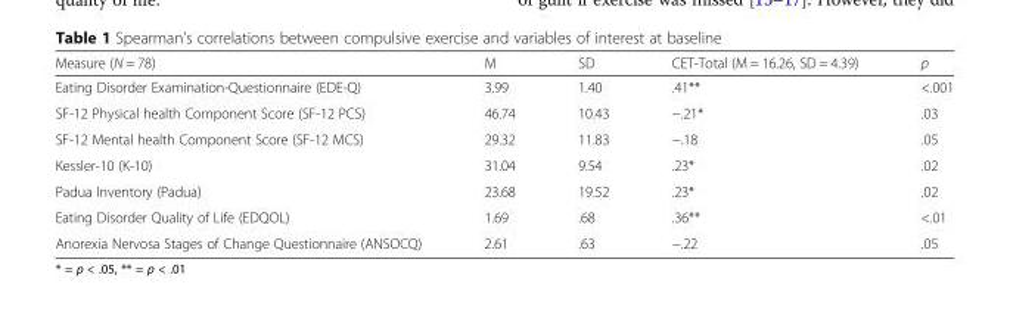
<table><thead><tr><td>Measure (N = 78)</td><td>M</td><td>SD</td><td>CET-Total (M = 16.26, SD = 4.39)</td><td>p</td></tr></thead><tbody><tr><td>Eating Disorder Examination-Questionnaire (EDE-Q)</td><td>3.99</td><td>1.40</td><td>.41**</td><td>&lt;.001</td></tr><tr><td>SF-12 Physical health Component Score (SF-12 PCS)</td><td>46.74</td><td>10.43</td><td>−.21*</td><td>.03</td></tr><tr><td>SF-12 Mental health Component Score (SF-12 MCS)</td><td>29.32</td><td>11.83</td><td>−.18</td><td>.05</td></tr><tr><td>Kessler-10 (K-10)</td><td>31.04</td><td>9.54</td><td>.23*</td><td>.02</td></tr><tr><td>Padua Inventory (Padua)</td><td>23.68</td><td>19.52</td><td>.23*</td><td>.02</td></tr><tr><td>Eating Disorder Quality of Life (EDQOL)</td><td>1.69</td><td>.68</td><td>.36**</td><td>&lt;.01</td></tr><tr><td>Anorexia Nervosa Stages of Change Questionnaire (ANSOCQ)</td><td>2.61</td><td>.63</td><td>−.22</td><td>.05</td></tr></tbody></table>